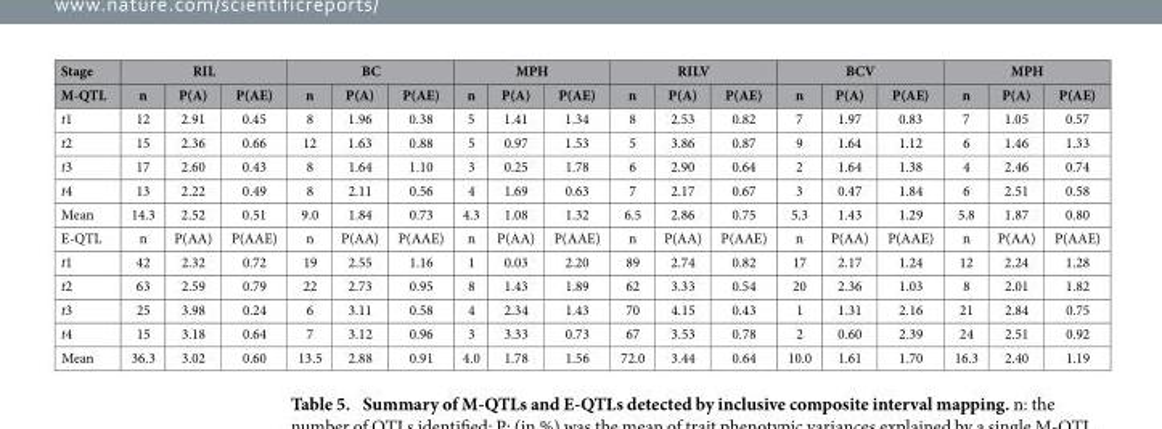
<table><thead><tr><td rowspan="2">Stage M-QTL</td><td colspan="3">RIL</td><td colspan="3">BC</td><td colspan="3">MPH</td><td colspan="3">RILV</td><td colspan="3">BCV</td><td colspan="3">MPH</td></tr><tr><td>n</td><td>P(A)</td><td>P(AE)</td><td>n</td><td>P(A)</td><td>P(AE)</td><td>n</td><td>P(A)</td><td>P(AE)</td><td>n</td><td>P(A)</td><td>P(AE)</td><td>n</td><td>P(A)</td><td>P(AE)</td><td>n</td><td>P(A)</td><td>P(AE)</td></tr></thead><tbody><tr><td>t1</td><td>12</td><td>2.91</td><td>0.45</td><td>8</td><td>1.96</td><td>0.38</td><td>5</td><td>1.41</td><td>1.34</td><td>8</td><td>2.53</td><td>0.82</td><td>7</td><td>1.97</td><td>0.83</td><td>7</td><td>1.05</td><td>0.57</td></tr><tr><td>t2</td><td>15</td><td>2.36</td><td>0.66</td><td>12</td><td>1.63</td><td>0.88</td><td>5</td><td>0.97</td><td>1.53</td><td>5</td><td>3.86</td><td>0.87</td><td>9</td><td>1.64</td><td>1.12</td><td>6</td><td>1.46</td><td>1.33</td></tr><tr><td>t3</td><td>17</td><td>2.60</td><td>0.43</td><td>8</td><td>1.64</td><td>1.10</td><td>3</td><td>0.25</td><td>1.78</td><td>6</td><td>2.90</td><td>0.64</td><td>2</td><td>1.64</td><td>1.38</td><td>4</td><td>2.46</td><td>0.74</td></tr><tr><td>t4</td><td>13</td><td>2.22</td><td>0.49</td><td>8</td><td>2.11</td><td>0.56</td><td>4</td><td>1.69</td><td>0.63</td><td>7</td><td>2.17</td><td>0.67</td><td>3</td><td>0.47</td><td>1.84</td><td>6</td><td>2.51</td><td>0.58</td></tr><tr><td>Mean</td><td>14.3</td><td>2.52</td><td>0.51</td><td>9.0</td><td>1.84</td><td>0.73</td><td>4.3</td><td>1.08</td><td>1.32</td><td>6.5</td><td>2.86</td><td>0.75</td><td>5.3</td><td>1.43</td><td>1.29</td><td>5.8</td><td>1.87</td><td>0.80</td></tr><tr><td>E-QTL</td><td>n</td><td>P(AA)</td><td>P(AAE)</td><td>n</td><td>P(AA)</td><td>P(AAE)</td><td>n</td><td>P(AA)</td><td>P(AAE)</td><td>n</td><td>P(AA)</td><td>P(AAE)</td><td>n</td><td>P(AA)</td><td>P(AAE)</td><td>n</td><td>P(AA)</td><td>P(AAE)</td></tr><tr><td>t1</td><td>42</td><td>2.32</td><td>0.72</td><td>19</td><td>2.55</td><td>1.16</td><td>1</td><td>0.03</td><td>2.20</td><td>89</td><td>2.74</td><td>0.82</td><td>17</td><td>2.17</td><td>1.24</td><td>12</td><td>2.24</td><td>1.28</td></tr><tr><td>t2</td><td>63</td><td>2.59</td><td>0.79</td><td>22</td><td>2.73</td><td>0.95</td><td>8</td><td>1.43</td><td>1.89</td><td>62</td><td>3.33</td><td>0.54</td><td>20</td><td>2.36</td><td>1.03</td><td>8</td><td>2.01</td><td>1.82</td></tr><tr><td>t3</td><td>25</td><td>3.98</td><td>0.24</td><td>6</td><td>3.11</td><td>0.58</td><td>4</td><td>2.34</td><td>1.43</td><td>70</td><td>4.15</td><td>0.43</td><td>1</td><td>1.31</td><td>2.16</td><td>21</td><td>2.84</td><td>0.75</td></tr><tr><td>t4</td><td>15</td><td>3.18</td><td>0.64</td><td>7</td><td>3.12</td><td>0.96</td><td>3</td><td>3.33</td><td>0.73</td><td>67</td><td>3.53</td><td>0.78</td><td>2</td><td>0.60</td><td>2.39</td><td>24</td><td>2.51</td><td>0.92</td></tr><tr><td>Mean</td><td>36.3</td><td>3.02</td><td>0.60</td><td>13.5</td><td>2.88</td><td>0.91</td><td>4.0</td><td>1.78</td><td>1.56</td><td>72.0</td><td>3.44</td><td>0.64</td><td>10.0</td><td>1.61</td><td>1.70</td><td>16.3</td><td>2.40</td><td>1.19</td></tr></tbody></table>